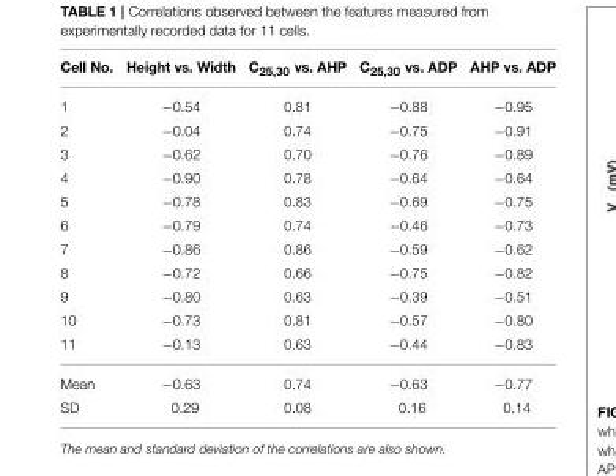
<table><thead><tr><td>Cell No.</td><td>Height vs. Width</td><td>C<sub>25,30</sub> vs. AHP</td><td>C<sub>25,30</sub> vs. ADP</td><td>AHP vs. ADP</td></tr></thead><tbody><tr><td>1</td><td>−0.54</td><td>0.81</td><td>−0.88</td><td>−0.95</td></tr><tr><td>2</td><td>−0.04</td><td>0.74</td><td>−0.75</td><td>−0.91</td></tr><tr><td>3</td><td>−0.62</td><td>0.70</td><td>−0.76</td><td>−0.89</td></tr><tr><td>4</td><td>−0.90</td><td>0.78</td><td>−0.64</td><td>−0.64</td></tr><tr><td>5</td><td>−0.78</td><td>0.83</td><td>−0.69</td><td>−0.75</td></tr><tr><td>6</td><td>−0.79</td><td>0.74</td><td>−0.46</td><td>−0.73</td></tr><tr><td>7</td><td>−0.86</td><td>0.86</td><td>−0.59</td><td>−0.62</td></tr><tr><td>8</td><td>−0.72</td><td>0.66</td><td>−0.75</td><td>−0.82</td></tr><tr><td>9</td><td>−0.80</td><td>0.63</td><td>−0.39</td><td>−0.51</td></tr><tr><td>10</td><td>−0.73</td><td>0.81</td><td>−0.57</td><td>−0.80</td></tr><tr><td>11</td><td>−0.13</td><td>0.63</td><td>−0.44</td><td>−0.83</td></tr><tr><td>Mean</td><td>−0.63</td><td>0.74</td><td>−0.63</td><td>−0.77</td></tr><tr><td>SD</td><td>0.29</td><td>0.08</td><td>0.16</td><td>0.14</td></tr></tbody></table>